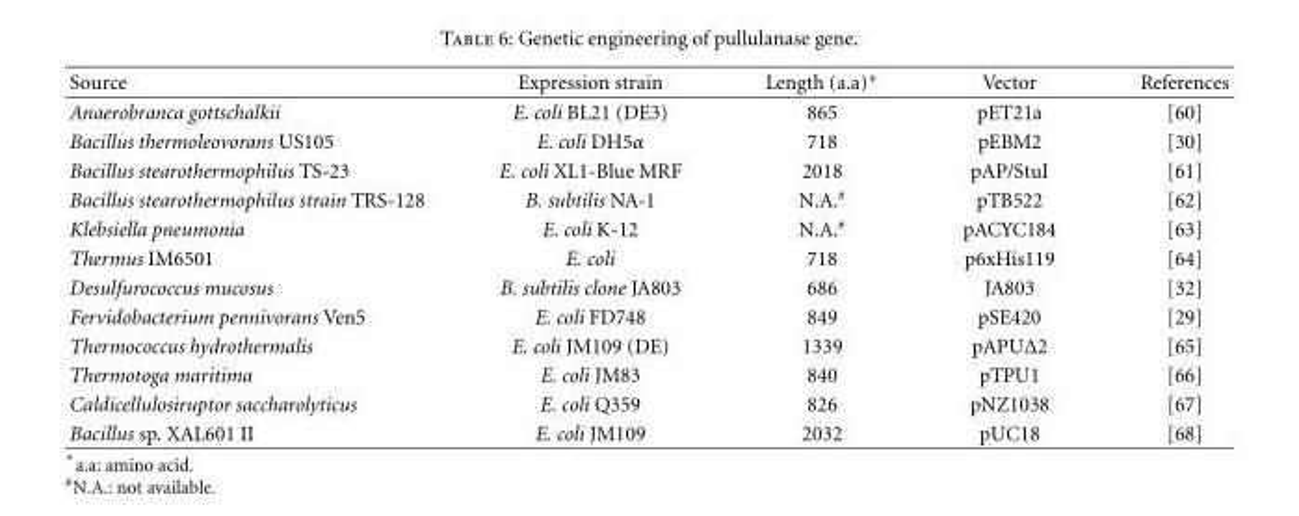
<table><thead><tr><td>Source</td><td>Expression strain</td><td>Length (a.a)∗</td><td>Vector</td><td>References</td></tr></thead><tbody><tr><td>Anaerobranca gottschalkii</td><td>E. coli BL21 (DE3)</td><td>865</td><td>pET21a</td><td>[60]</td></tr><tr><td>Bacillus thermoleovorans US105</td><td>E. coli DH5α</td><td>718</td><td>pEBM2</td><td>[30]</td></tr><tr><td>Bacillus stearothermophilus TS-23</td><td>E. coli XL1-Blue MRF</td><td>2018</td><td>pAP/StuI</td><td>[61]</td></tr><tr><td>Bacillus stearothermophilus strain TRS-128</td><td>B. subtilis NA-1</td><td>N.A.<sup>#</sup></td><td>pTB522</td><td>[62]</td></tr><tr><td>Klebsiella pneumonia</td><td>E. coli K-12</td><td>N.A.<sup>#</sup></td><td>pACYC184</td><td>[63]</td></tr><tr><td>Thermus IM6501</td><td>E. coli</td><td>718</td><td>p6xHis119</td><td>[64]</td></tr><tr><td>Desulfurococcus mucosus</td><td>B. subtilis clone JA803</td><td>686</td><td>JA803</td><td>[32]</td></tr><tr><td>Fervidobacterium pennivorans Ven5</td><td>E. coli FD748</td><td>849</td><td>pSE420</td><td>[29]</td></tr><tr><td>Thermococcus hydrothermalis</td><td>E. coli JM109 (DE)</td><td>1339</td><td>pAPUΔ2</td><td>[65]</td></tr><tr><td>Thermotoga maritima</td><td>E. coli JM83</td><td>840</td><td>pTPU1</td><td>[66]</td></tr><tr><td>Caldicellulosiruptor saccharolyticus</td><td>E. coli Q359</td><td>826</td><td>pNZ1038</td><td>[67]</td></tr><tr><td>Bacillus sp. XAL601 II</td><td>E. coli JM109</td><td>2032</td><td>pUC18</td><td>[68]</td></tr></tbody></table>